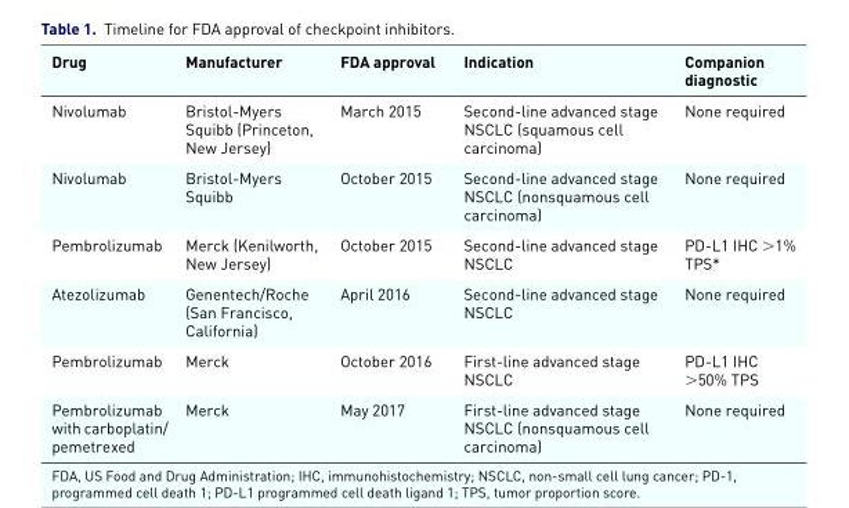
<table><thead><tr><td>Drug</td><td>Manufacturer</td><td>FDA approval</td><td>Indication</td><td>Companion diagnostic</td></tr></thead><tbody><tr><td>Nivolumab</td><td>Bristol-Myers Squibb (Princeton, New Jersey)</td><td>March 2015</td><td>Second-line advanced stage NSCLC (squamous cell carcinoma)</td><td>None required</td></tr><tr><td>Nivolumab</td><td>Bristol-Myers Squibb</td><td>October 2015</td><td>Second-line advanced stage NSCLC (nonsquamous cell carcinoma)</td><td>None required</td></tr><tr><td>Pembrolizumab</td><td>Merck (Kenilworth, New Jersey)</td><td>October 2015</td><td>Second-line advanced stage NSCLC</td><td>PD-L1 IHC &gt;1% TPS*</td></tr><tr><td>Atezolizumab</td><td>Genentech/Roche (San Francisco, California)</td><td>April 2016</td><td>Second-line advanced stage NSCLC</td><td>None required</td></tr><tr><td>Pembrolizumab</td><td>Merck</td><td>October 2016</td><td>First-line advanced stage NSCLC</td><td>PD-L1 IHC &gt;50% TPS</td></tr><tr><td>Pembrolizumab with carboplatin/ pemetrexed</td><td>Merck</td><td>May 2017</td><td>First-line advanced stage NSCLC (nonsquamous cell carcinoma)</td><td>None required</td></tr></tbody></table>